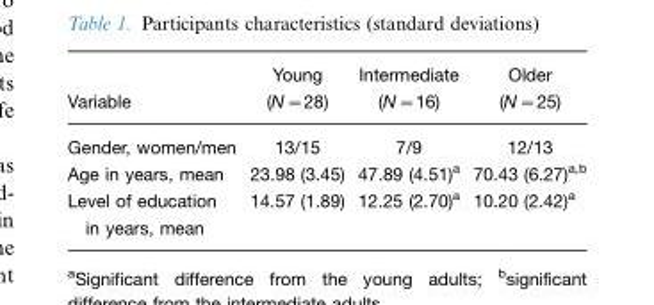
<table><thead><tr><td>Variable</td><td>Young (N=28)</td><td>Intermediate (N=16)</td><td>Older (N=25)</td></tr></thead><tbody><tr><td>Gender, women/men</td><td>13/15</td><td>7/9</td><td>12/13</td></tr><tr><td>Age in years, mean</td><td>23.98 (3.45)</td><td>47.89 (4.51)<sup>a</sup></td><td>70.43 (6.27)a,b</td></tr><tr><td>Level of education in years, mean</td><td>14.57 (1.89)</td><td>12.25 (2.70)<sup>a</sup></td><td>10.20 (2.42)<sup>a</sup></td></tr></tbody></table>